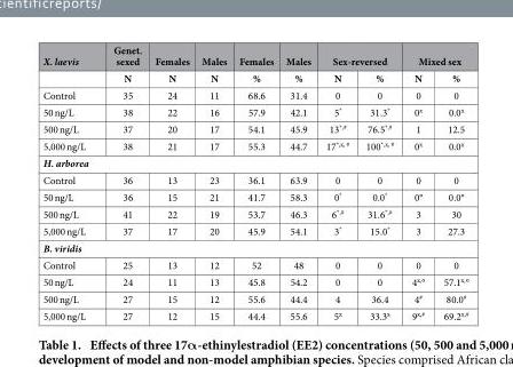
<table><thead><tr><td rowspan="2">X. laevis</td><td rowspan="2">Genet. sexed N</td><td rowspan="2">Females N</td><td rowspan="2">Males N</td><td rowspan="2">Females %</td><td rowspan="2">Males %</td><td colspan="2">Sex-reversed</td><td colspan="2">Mixed sex</td></tr><tr><td>N</td><td>%</td><td>N</td><td>%</td></tr></thead><tbody><tr><td>Control</td><td>35</td><td>24</td><td>11</td><td>68.6</td><td>31.4</td><td>0</td><td>0</td><td>0</td><td>0</td></tr><tr><td>50 ng/L</td><td>38</td><td>22</td><td>16</td><td>57.9</td><td>42.1</td><td>5*</td><td>31.3*</td><td>0<sup>x</sup></td><td>0.0<sup>x</sup></td></tr><tr><td>500 ng/L</td><td>37</td><td>20</td><td>17</td><td>54.1</td><td>45.9</td><td>13*,#</td><td>76.5*,#</td><td>1</td><td>12.5</td></tr><tr><td>5,000 ng/L</td><td>38</td><td>21</td><td>17</td><td>55.3</td><td>44.7</td><td>17*,<sup>x</sup>, #</td><td>100*,<sup>x</sup>, #</td><td>0<sup>x</sup></td><td>0.0<sup>x</sup></td></tr><tr><td colspan="10">H. arborea</td></tr><tr><td>Control</td><td>36</td><td>13</td><td>23</td><td>36.1</td><td>63.9</td><td>0</td><td>0</td><td>0</td><td>0</td></tr><tr><td>50 ng/L</td><td>36</td><td>15</td><td>21</td><td>41.7</td><td>58.3</td><td>0*</td><td>0.0*</td><td>0°</td><td>0.0°</td></tr><tr><td>500 ng/L</td><td>41</td><td>22</td><td>19</td><td>53.7</td><td>46.3</td><td>6*,#</td><td>31.6*,#</td><td>3</td><td>30</td></tr><tr><td>5,000 ng/L</td><td>37</td><td>17</td><td>20</td><td>45.9</td><td>54.1</td><td>3*</td><td>15.0*</td><td>3</td><td>27.3</td></tr><tr><td colspan="10">B. viridis</td></tr><tr><td>Control</td><td>25</td><td>13</td><td>12</td><td>52</td><td>48</td><td>0</td><td>0</td><td>0</td><td>0</td></tr><tr><td>50 ng/L</td><td>24</td><td>11</td><td>13</td><td>45.8</td><td>54.2</td><td>0</td><td>0</td><td>4<sup>x</sup>,°</td><td>57.1<sup>x</sup>,°</td></tr><tr><td>500 ng/L</td><td>27</td><td>15</td><td>12</td><td>55.6</td><td>44.4</td><td>4</td><td>36.4</td><td>4#</td><td>80.0#</td></tr><tr><td>5,000 ng/L</td><td>27</td><td>12</td><td>15</td><td>44.4</td><td>55.6</td><td>5<sup>x</sup></td><td>33.3<sup>x</sup></td><td>9<sup>x</sup>,#</td><td>69.2<sup>x</sup>,#</td></tr></tbody></table>